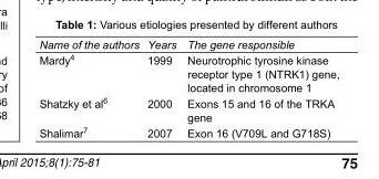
<table><tbody><tr><td>Name of the authors</td><td>Years</td><td>The gene responsible</td></tr><tr><td>Mardy<sup>4</sup></td><td>1999</td><td>Neurotrophic tyrosine kinase receptor type 1 (NTRK1) gene, located in chromosome 1</td></tr><tr><td>Shatzky et al<sup>6</sup></td><td>2000</td><td>Exons 15 and 16 of the TRKA gene</td></tr><tr><td>Shalimar<sup>7</sup></td><td>2007</td><td>Exon 16 (V709L and G718S)</td></tr></tbody></table>